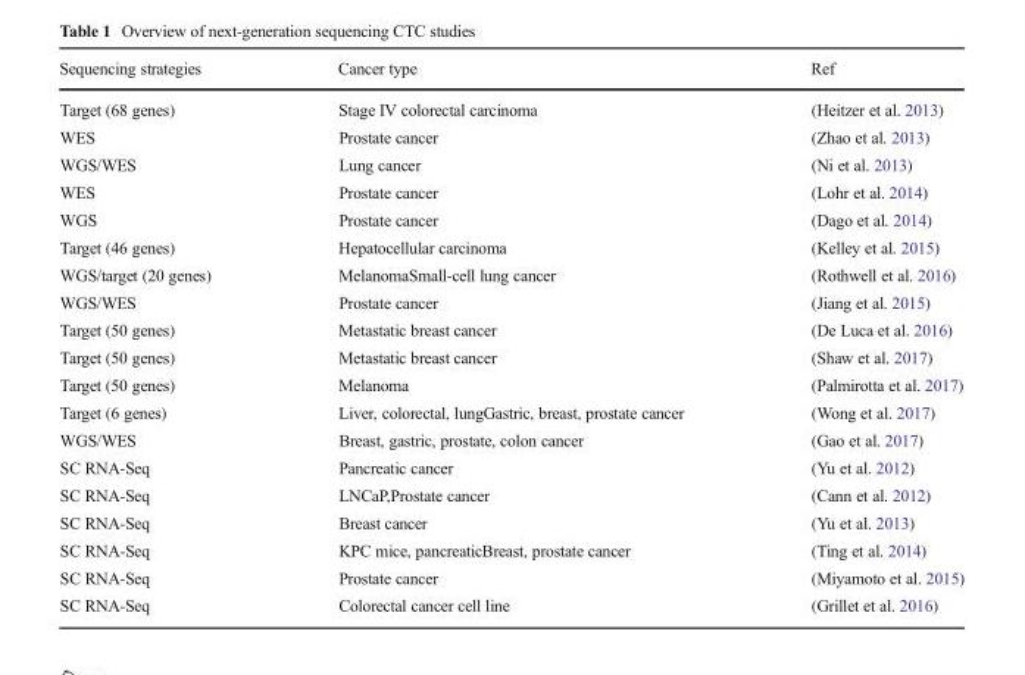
<table><thead><tr><td>Sequencing strategies</td><td>Cancer type</td><td>Ref</td></tr></thead><tbody><tr><td>Target (68 genes)</td><td>Stage IV colorectal carcinoma</td><td>(Heitzer et al. 2013)</td></tr><tr><td>WES</td><td>Prostate cancer</td><td>(Zhao et al. 2013)</td></tr><tr><td>WGS/WES</td><td>Lung cancer</td><td>(Ni et al. 2013)</td></tr><tr><td>WES</td><td>Prostate cancer</td><td>(Lohr et al. 2014)</td></tr><tr><td>WGS</td><td>Prostate cancer</td><td>(Dago et al. 2014)</td></tr><tr><td>Target (46 genes)</td><td>Hepatocellular carcinoma</td><td>(Kelley et al. 2015)</td></tr><tr><td>WGS/target (20 genes)</td><td>MelanomaSmall-cell lung cancer</td><td>(Rothwell et al. 2016)</td></tr><tr><td>WGS/WES</td><td>Prostate cancer</td><td>(Jiang et al. 2015)</td></tr><tr><td>Target (50 genes)</td><td>Metastatic breast cancer</td><td>(De Luca et al. 2016)</td></tr><tr><td>Target (50 genes)</td><td>Metastatic breast cancer</td><td>(Shaw et al. 2017)</td></tr><tr><td>Target (50 genes)</td><td>Melanoma</td><td>(Palmirotta et al. 2017)</td></tr><tr><td>Target (6 genes)</td><td>Liver, colorectal, lungGastric, breast, prostate cancer</td><td>(Wong et al. 2017)</td></tr><tr><td>WGS/WES</td><td>Breast, gastric, prostate, colon cancer</td><td>(Gao et al. 2017)</td></tr><tr><td>SC RNA-Seq</td><td>Pancreatic cancer</td><td>(Yu et al. 2012)</td></tr><tr><td>SC RNA-Seq</td><td>LNCaP,Prostate cancer</td><td>(Cann et al. 2012)</td></tr><tr><td>SC RNA-Seq</td><td>Breast cancer</td><td>(Yu et al. 2013)</td></tr><tr><td>SC RNA-Seq</td><td>KPC mice, pancreaticBreast, prostate cancer</td><td>(Ting et al. 2014)</td></tr><tr><td>SC RNA-Seq</td><td>Prostate cancer</td><td>(Miyamoto et al. 2015)</td></tr><tr><td>SC RNA-Seq</td><td>Colorectal cancer cell line</td><td>(Grillet et al. 2016)</td></tr></tbody></table>